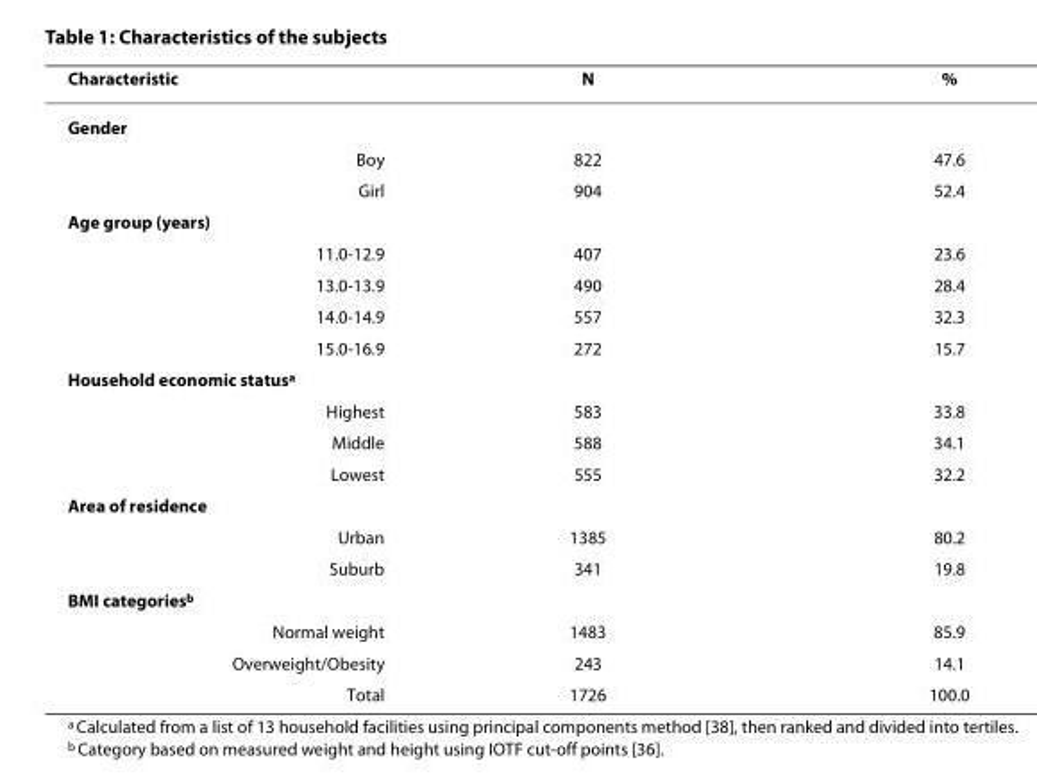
<table><thead><tr><td>Characteristic</td><td>N</td><td>%</td></tr></thead><tbody><tr><td colspan="3">Gender</td></tr><tr><td>Boy</td><td>822</td><td>47.6</td></tr><tr><td>Girl</td><td>904</td><td>52.4</td></tr><tr><td colspan="3">Age group (years)</td></tr><tr><td>11.0-12.9</td><td>407</td><td>23.6</td></tr><tr><td>13.0-13.9</td><td>490</td><td>28.4</td></tr><tr><td>14.0-14.9</td><td>557</td><td>32.3</td></tr><tr><td>15.0-16.9</td><td>272</td><td>15.7</td></tr><tr><td colspan="3">Household economic status<sup>a</sup></td></tr><tr><td>Highest</td><td>583</td><td>33.8</td></tr><tr><td>Middle</td><td>588</td><td>34.1</td></tr><tr><td>Lowest</td><td>555</td><td>32.2</td></tr><tr><td colspan="3">Area of residence</td></tr><tr><td>Urban</td><td>1385</td><td>80.2</td></tr><tr><td>Suburb</td><td>341</td><td>19.8</td></tr><tr><td colspan="3">BMI categories<sup>b</sup></td></tr><tr><td>Normal weight</td><td>1483</td><td>85.9</td></tr><tr><td>Overweight/Obesity</td><td>243</td><td>14.1</td></tr><tr><td>Total</td><td>1726</td><td>100.0</td></tr></tbody></table>